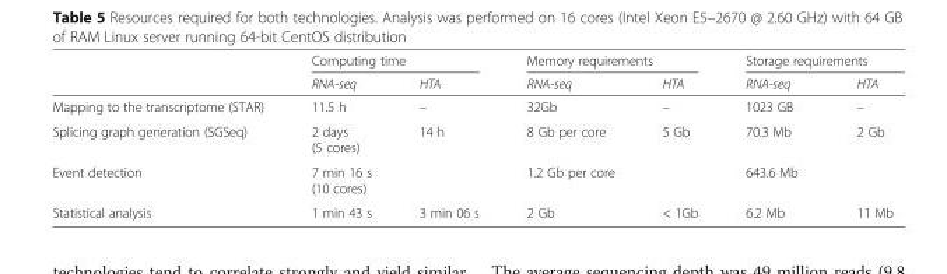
<table><thead><tr><td rowspan="2"></td><td colspan="2">Computing time</td><td colspan="2">Memory requirements</td><td colspan="2">Storage requirements</td></tr><tr><td>RNA-seq</td><td>HTA</td><td>RNA-seq</td><td>HTA</td><td>RNA-seq</td><td>HTA</td></tr></thead><tbody><tr><td>Mapping to the transcriptome (STAR)</td><td>11.5 h</td><td>–</td><td>32Gb</td><td>–</td><td>1023 GB</td><td>–</td></tr><tr><td>Splicing graph generation (SGSeq)</td><td>2 days (5 cores)</td><td rowspan="2">14 h</td><td>8 Gb per core</td><td rowspan="2">5 Gb</td><td>70.3 Mb</td><td rowspan="2">2 Gb</td></tr><tr><td>Event detection</td><td>7 min 16 s (10 cores)</td><td>1.2 Gb per core</td><td>643.6 Mb</td></tr><tr><td>Statistical analysis</td><td>1 min 43 s</td><td>3 min 06 s</td><td>2 Gb</td><td>&lt; 1Gb</td><td>6.2 Mb</td><td>11 Mb</td></tr></tbody></table>